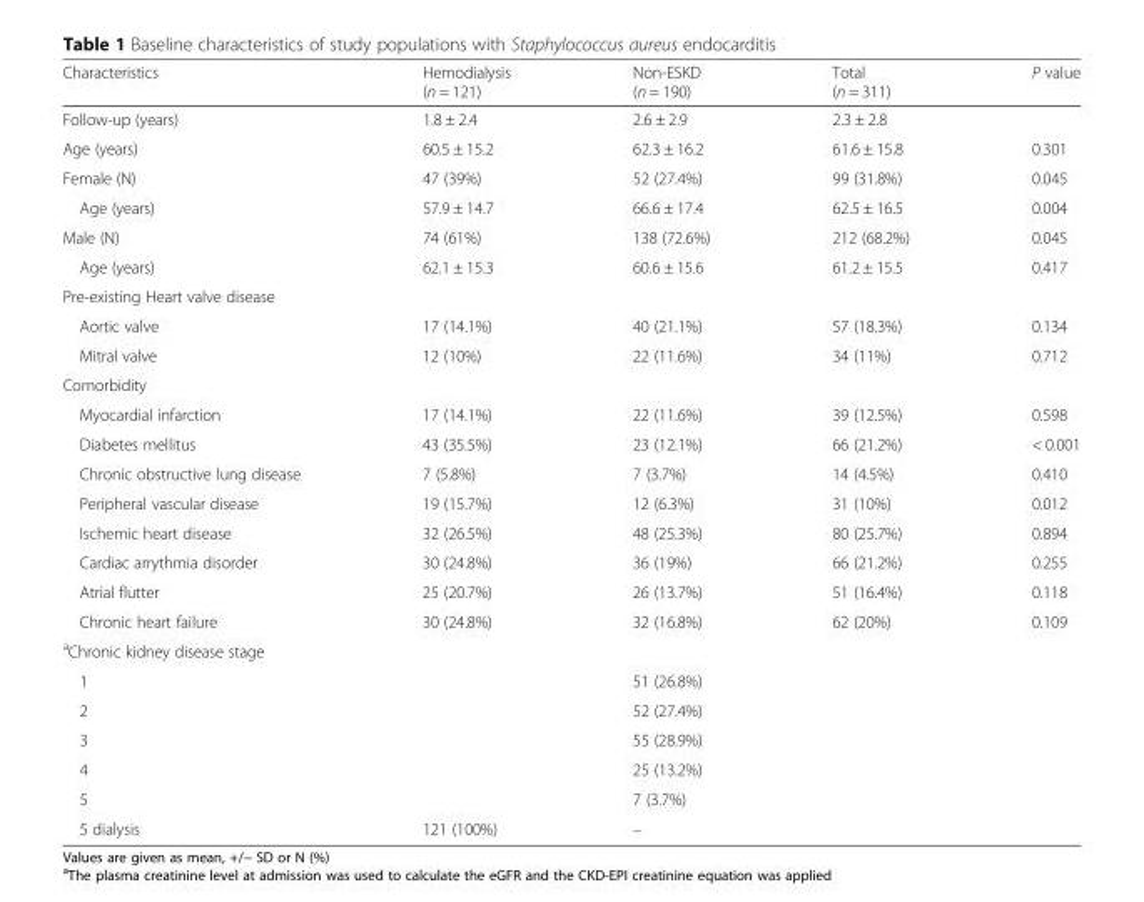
<table><thead><tr><td>Characteristics</td><td>Hemodialysis (n = 121)</td><td>Non-ESKD (n = 190)</td><td>Total (n = 311)</td><td>P value</td></tr></thead><tbody><tr><td>Follow-up (years)</td><td>1.8 ± 2.4</td><td>2.6 ± 2.9</td><td>2.3 ± 2.8</td><td></td></tr><tr><td>Age (years)</td><td>60.5 ± 15.2</td><td>62.3 ± 16.2</td><td>61.6 ± 15.8</td><td>0.301</td></tr><tr><td>Female (N)</td><td>47 (39%)</td><td>52 (27.4%)</td><td>99 (31.8%)</td><td>0.045</td></tr><tr><td>Age (years)</td><td>57.9 ± 14.7</td><td>66.6 ± 17.4</td><td>62.5 ± 16.5</td><td>0.004</td></tr><tr><td>Male (N)</td><td>74 (61%)</td><td>138 (72.6%)</td><td>212 (68.2%)</td><td>0.045</td></tr><tr><td>Age (years)</td><td>62.1 ± 15.3</td><td>60.6 ± 15.6</td><td>61.2 ± 15.5</td><td>0.417</td></tr><tr><td colspan="5">Pre-existing Heart valve disease</td></tr><tr><td>Aortic valve</td><td>17 (14.1%)</td><td>40 (21.1%)</td><td>57 (18.3%)</td><td>0.134</td></tr><tr><td>Mitral valve</td><td>12 (10%)</td><td>22 (11.6%)</td><td>34 (11%)</td><td>0.712</td></tr><tr><td colspan="5">Comorbidity</td></tr><tr><td>Myocardial infarction</td><td>17 (14.1%)</td><td>22 (11.6%)</td><td>39 (12.5%)</td><td>0.598</td></tr><tr><td>Diabetes mellitus</td><td>43 (35.5%)</td><td>23 (12.1%)</td><td>66 (21.2%)</td><td>&lt; 0.001</td></tr><tr><td>Chronic obstructive lung disease</td><td>7 (5.8%)</td><td>7 (3.7%)</td><td>14 (4.5%)</td><td>0.410</td></tr><tr><td>Peripheral vascular disease</td><td>19 (15.7%)</td><td>12 (6.3%)</td><td>31 (10%)</td><td>0.012</td></tr><tr><td>Ischemic heart disease</td><td>32 (26.5%)</td><td>48 (25.3%)</td><td>80 (25.7%)</td><td>0.894</td></tr><tr><td>Cardiac arrythmia disorder</td><td>30 (24.8%)</td><td>36 (19%)</td><td>66 (21.2%)</td><td>0.255</td></tr><tr><td>Atrial flutter</td><td>25 (20.7%)</td><td>26 (13.7%)</td><td>51 (16.4%)</td><td>0.118</td></tr><tr><td>Chronic heart failure</td><td>30 (24.8%)</td><td>32 (16.8%)</td><td>62 (20%)</td><td>0.109</td></tr><tr><td colspan="5"><sup>a</sup>Chronic kidney disease stage</td></tr><tr><td>1</td><td></td><td>51 (26.8%)</td><td></td><td></td></tr><tr><td>2</td><td></td><td>52 (27.4%)</td><td></td><td></td></tr><tr><td>3</td><td></td><td>55 (28.9%)</td><td></td><td></td></tr><tr><td>4</td><td></td><td>25 (13.2%)</td><td></td><td></td></tr><tr><td>5</td><td></td><td>7 (3.7%)</td><td></td><td></td></tr><tr><td>5 dialysis</td><td>121 (100%)</td><td>–</td><td></td><td></td></tr></tbody></table>